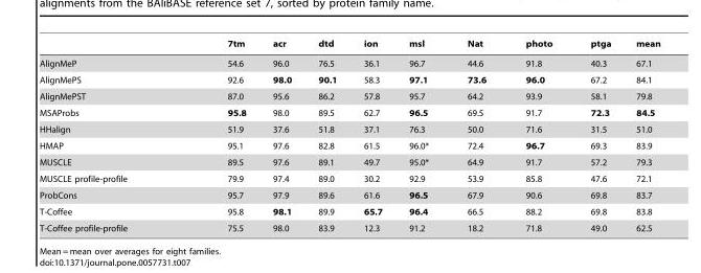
<table><thead><tr><td></td><td>7tm</td><td>acr</td><td>dtd</td><td>ion</td><td>msl</td><td>Nat</td><td>photo</td><td>ptga</td><td>mean</td></tr></thead><tbody><tr><td>AlignMeP</td><td>54.6</td><td>96.0</td><td>76.5</td><td>36.1</td><td>96.7</td><td>44.6</td><td>91.8</td><td>40.3</td><td>67.1</td></tr><tr><td>AlignMePS</td><td>92.6</td><td>98.0</td><td>90.1</td><td>58.3</td><td>97.1</td><td>73.6</td><td>96.0</td><td>67.2</td><td>84.1</td></tr><tr><td>AlignMePST</td><td>87.0</td><td>95.6</td><td>86.2</td><td>57.8</td><td>95.7</td><td>64.2</td><td>93.9</td><td>58.1</td><td>79.8</td></tr><tr><td>MSAProbs</td><td>95.8</td><td>98.0</td><td>89.5</td><td>62.7</td><td>96.5</td><td>69.5</td><td>91.7</td><td>72.3</td><td>84.5</td></tr><tr><td>HHalign</td><td>51.9</td><td>37.6</td><td>51.8</td><td>37.1</td><td>76.3</td><td>50.0</td><td>71.6</td><td>31.5</td><td>51.0</td></tr><tr><td>HMAP</td><td>95.1</td><td>97.6</td><td>82.8</td><td>61.5</td><td>96.0*</td><td>72.4</td><td>96.7</td><td>69.3</td><td>83.9</td></tr><tr><td>MUSCLE</td><td>89.5</td><td>97.6</td><td>89.1</td><td>49.7</td><td>95.0*</td><td>64.9</td><td>91.7</td><td>57.2</td><td>79.3</td></tr><tr><td>MUSCLE profile-profile</td><td>79.9</td><td>97.4</td><td>89.0</td><td>30.2</td><td>92.9</td><td>53.9</td><td>85.8</td><td>47.6</td><td>72.1</td></tr><tr><td>ProbCons</td><td>95.7</td><td>97.9</td><td>89.6</td><td>61.6</td><td>96.5</td><td>67.9</td><td>90.6</td><td>69.8</td><td>83.7</td></tr><tr><td>T-Coffee</td><td>95.8</td><td>98.1</td><td>89.9</td><td>65.7</td><td>96.4</td><td>66.5</td><td>88.2</td><td>69.8</td><td>83.8</td></tr><tr><td>T-Coffee profile-profile</td><td>75.5</td><td>98.0</td><td>83.9</td><td>12.3</td><td>91.2</td><td>18.2</td><td>71.8</td><td>49.0</td><td>62.5</td></tr></tbody></table>